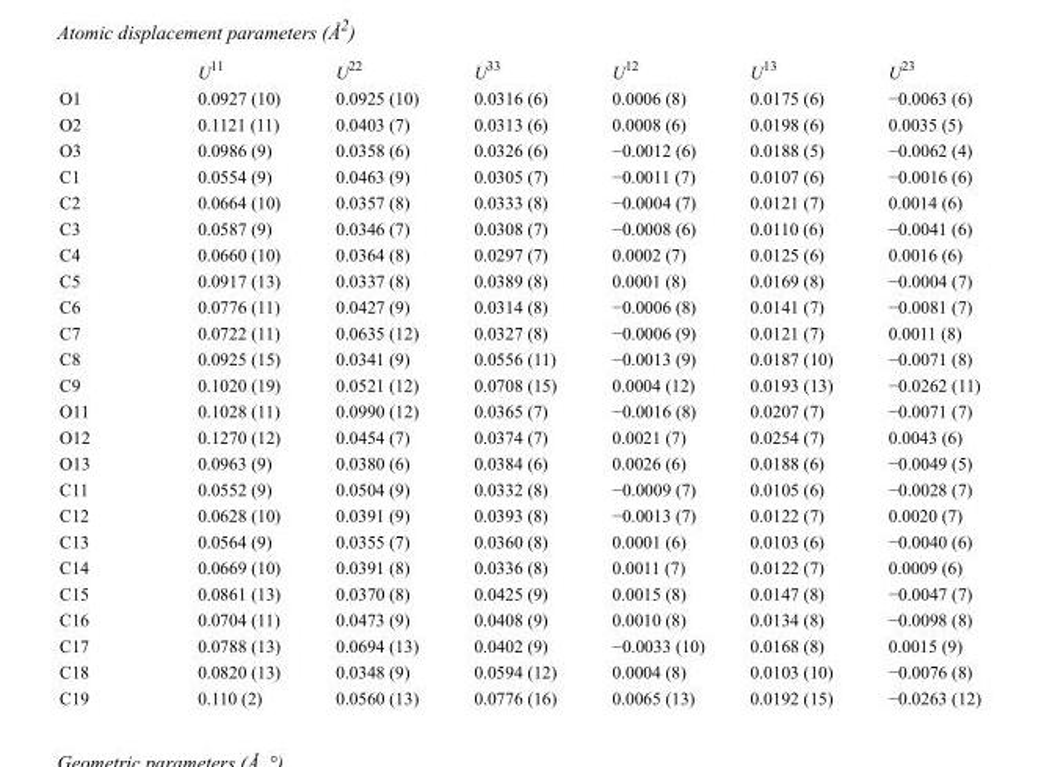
<table><thead><tr><td></td><td>U<sup>11</sup></td><td>U<sup>22</sup></td><td>U<sup>33</sup></td><td>U<sup>12</sup></td><td>U<sup>13</sup></td><td>U<sup>23</sup></td></tr></thead><tbody><tr><td>O1</td><td>0.0927 (10)</td><td>0.0925 (10)</td><td>0.0316 (6)</td><td>0.0006 (8)</td><td>0.0175 (6)</td><td>−0.0063 (6)</td></tr><tr><td>O2</td><td>0.1121 (11)</td><td>0.0403 (7)</td><td>0.0313 (6)</td><td>0.0008 (6)</td><td>0.0198 (6)</td><td>0.0035 (5)</td></tr><tr><td>O3</td><td>0.0986 (9)</td><td>0.0358 (6)</td><td>0.0326 (6)</td><td>−0.0012 (6)</td><td>0.0188 (5)</td><td>−0.0062 (4)</td></tr><tr><td>C1</td><td>0.0554 (9)</td><td>0.0463 (9)</td><td>0.0305 (7)</td><td>−0.0011 (7)</td><td>0.0107 (6)</td><td>−0.0016 (6)</td></tr><tr><td>C2</td><td>0.0664 (10)</td><td>0.0357 (8)</td><td>0.0333 (8)</td><td>−0.0004 (7)</td><td>0.0121 (7)</td><td>0.0014 (6)</td></tr><tr><td>C3</td><td>0.0587 (9)</td><td>0.0346 (7)</td><td>0.0308 (7)</td><td>−0.0008 (6)</td><td>0.0110 (6)</td><td>−0.0041 (6)</td></tr><tr><td>C4</td><td>0.0660 (10)</td><td>0.0364 (8)</td><td>0.0297 (7)</td><td>0.0002 (7)</td><td>0.0125 (6)</td><td>0.0016 (6)</td></tr><tr><td>C5</td><td>0.0917 (13)</td><td>0.0337 (8)</td><td>0.0389 (8)</td><td>0.0001 (8)</td><td>0.0169 (8)</td><td>−0.0004 (7)</td></tr><tr><td>C6</td><td>0.0776 (11)</td><td>0.0427 (9)</td><td>0.0314 (8)</td><td>−0.0006 (8)</td><td>0.0141 (7)</td><td>−0.0081 (7)</td></tr><tr><td>C7</td><td>0.0722 (11)</td><td>0.0635 (12)</td><td>0.0327 (8)</td><td>−0.0006 (9)</td><td>0.0121 (7)</td><td>0.0011 (8)</td></tr><tr><td>C8</td><td>0.0925 (15)</td><td>0.0341 (9)</td><td>0.0556 (11)</td><td>−0.0013 (9)</td><td>0.0187 (10)</td><td>−0.0071 (8)</td></tr><tr><td>C9</td><td>0.1020 (19)</td><td>0.0521 (12)</td><td>0.0708 (15)</td><td>0.0004 (12)</td><td>0.0193 (13)</td><td>−0.0262 (11)</td></tr><tr><td>O11</td><td>0.1028 (11)</td><td>0.0990 (12)</td><td>0.0365 (7)</td><td>−0.0016 (8)</td><td>0.0207 (7)</td><td>−0.0071 (7)</td></tr><tr><td>O12</td><td>0.1270 (12)</td><td>0.0454 (7)</td><td>0.0374 (7)</td><td>0.0021 (7)</td><td>0.0254 (7)</td><td>0.0043 (6)</td></tr><tr><td>O13</td><td>0.0963 (9)</td><td>0.0380 (6)</td><td>0.0384 (6)</td><td>0.0026 (6)</td><td>0.0188 (6)</td><td>−0.0049 (5)</td></tr><tr><td>C11</td><td>0.0552 (9)</td><td>0.0504 (9)</td><td>0.0332 (8)</td><td>−0.0009 (7)</td><td>0.0105 (6)</td><td>−0.0028 (7)</td></tr><tr><td>C12</td><td>0.0628 (10)</td><td>0.0391 (9)</td><td>0.0393 (8)</td><td>−0.0013 (7)</td><td>0.0122 (7)</td><td>0.0020 (7)</td></tr><tr><td>C13</td><td>0.0564 (9)</td><td>0.0355 (7)</td><td>0.0360 (8)</td><td>0.0001 (6)</td><td>0.0103 (6)</td><td>−0.0040 (6)</td></tr><tr><td>C14</td><td>0.0669 (10)</td><td>0.0391 (8)</td><td>0.0336 (8)</td><td>0.0011 (7)</td><td>0.0122 (7)</td><td>0.0009 (6)</td></tr><tr><td>C15</td><td>0.0861 (13)</td><td>0.0370 (8)</td><td>0.0425 (9)</td><td>0.0015 (8)</td><td>0.0147 (8)</td><td>−0.0047 (7)</td></tr><tr><td>C16</td><td>0.0704 (11)</td><td>0.0473 (9)</td><td>0.0408 (9)</td><td>0.0010 (8)</td><td>0.0134 (8)</td><td>−0.0098 (8)</td></tr><tr><td>C17</td><td>0.0788 (13)</td><td>0.0694 (13)</td><td>0.0402 (9)</td><td>−0.0033 (10)</td><td>0.0168 (8)</td><td>0.0015 (9)</td></tr><tr><td>C18</td><td>0.0820 (13)</td><td>0.0348 (9)</td><td>0.0594 (12)</td><td>0.0004 (8)</td><td>0.0103 (10)</td><td>−0.0076 (8)</td></tr><tr><td>C19</td><td>0.110 (2)</td><td>0.0560 (13)</td><td>0.0776 (16)</td><td>0.0065 (13)</td><td>0.0192 (15)</td><td>−0.0263 (12)</td></tr></tbody></table>